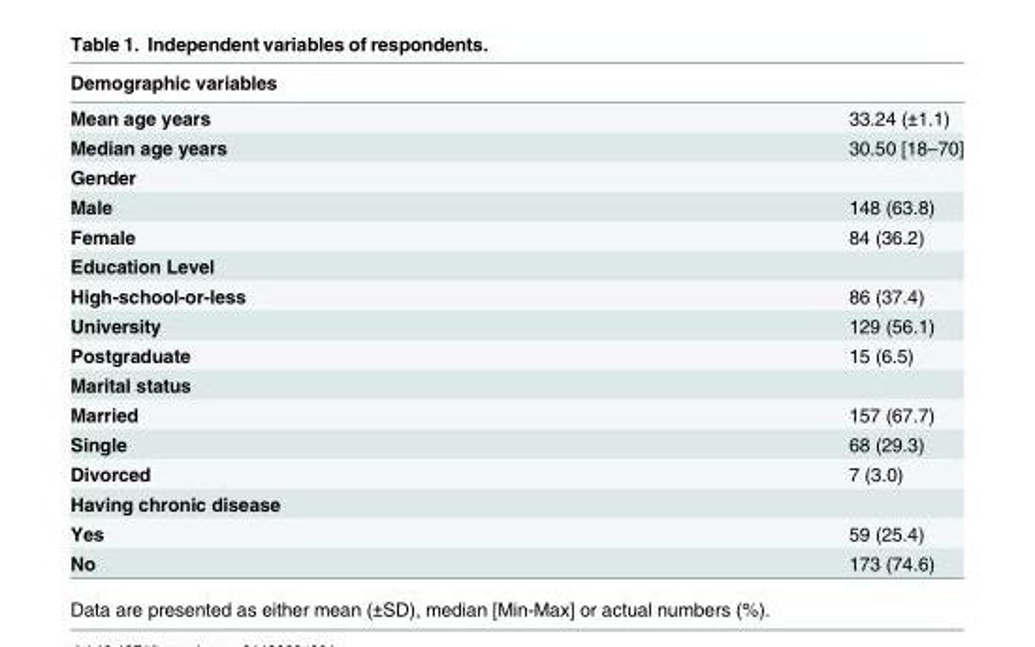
<table><thead><tr><td>Demographic variables</td><td></td></tr></thead><tbody><tr><td>Mean age years</td><td>33.24 (±1.1)</td></tr><tr><td>Median age years</td><td>30.50 [18–70]</td></tr><tr><td colspan="2">Gender</td></tr><tr><td>Male</td><td>148 (63.8)</td></tr><tr><td>Female</td><td>84 (36.2)</td></tr><tr><td colspan="2">Education Level</td></tr><tr><td>High-school-or-less</td><td>86 (37.4)</td></tr><tr><td>University</td><td>129 (56.1)</td></tr><tr><td>Postgraduate</td><td>15 (6.5)</td></tr><tr><td colspan="2">Marital status</td></tr><tr><td>Married</td><td>157 (67.7)</td></tr><tr><td>Single</td><td>68 (29.3)</td></tr><tr><td>Divorced</td><td>7 (3.0)</td></tr><tr><td colspan="2">Having chronic disease</td></tr><tr><td>Yes</td><td>59 (25.4)</td></tr><tr><td>No</td><td>173 (74.6)</td></tr></tbody></table>